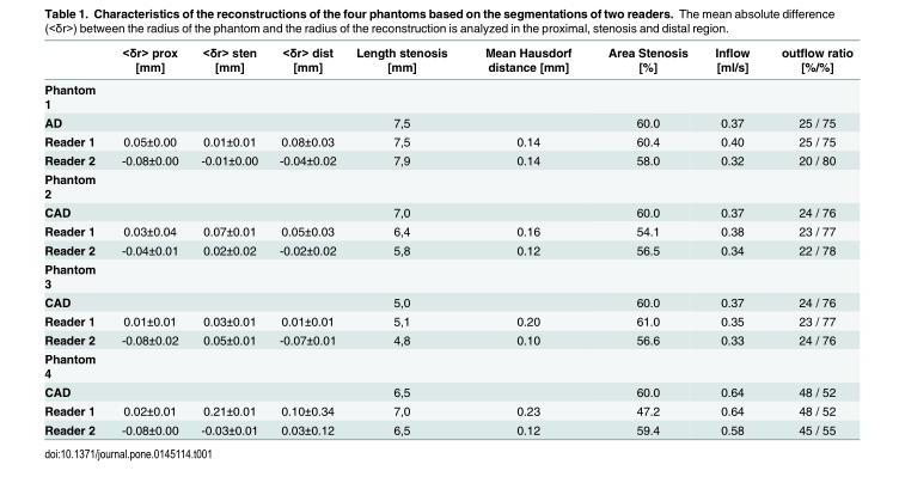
<table><thead><tr><td></td><td>&lt;δr&gt; prox [mm]</td><td>&lt;δr&gt; sten [mm]</td><td>&lt;δr&gt; dist [mm]</td><td>Length stenosis [mm]</td><td>Mean Hausdorf distance [mm]</td><td>Area Stenosis [%]</td><td>Inflow [ml/s]</td><td>outflow ratio [%/%]</td></tr></thead><tbody><tr><td colspan="9">Phantom 1</td></tr><tr><td>AD</td><td></td><td></td><td></td><td>7,5</td><td></td><td>60.0</td><td>0.37</td><td>25 / 75</td></tr><tr><td>Reader 1</td><td>0.05±0.00</td><td>0.01±0.01</td><td>0.08±0.03</td><td>7,5</td><td>0.14</td><td>60.4</td><td>0.40</td><td>25 / 75</td></tr><tr><td>Reader 2</td><td>-0.08±0.00</td><td>-0.01±0.00</td><td>-0.04±0.02</td><td>7,9</td><td>0.14</td><td>58.0</td><td>0.32</td><td>20 / 80</td></tr><tr><td colspan="9">Phantom 2</td></tr><tr><td>CAD</td><td></td><td></td><td></td><td>7,0</td><td></td><td>60.0</td><td>0.37</td><td>24 / 76</td></tr><tr><td>Reader 1</td><td>0.03±0.04</td><td>0.07±0.01</td><td>0.05±0.03</td><td>6,4</td><td>0.16</td><td>54.1</td><td>0.38</td><td>23 / 77</td></tr><tr><td>Reader 2</td><td>-0.04±0.01</td><td>0.02±0.02</td><td>-0.02±0.02</td><td>5,8</td><td>0.12</td><td>56.5</td><td>0.34</td><td>22 / 78</td></tr><tr><td colspan="9">Phantom 3</td></tr><tr><td>CAD</td><td></td><td></td><td></td><td>5,0</td><td></td><td>60.0</td><td>0.37</td><td>24 / 76</td></tr><tr><td>Reader 1</td><td>0.01±0.01</td><td>0.03±0.01</td><td>0.01±0.01</td><td>5,1</td><td>0.20</td><td>61.0</td><td>0.35</td><td>23 / 77</td></tr><tr><td>Reader 2</td><td>-0.08±0.02</td><td>0.05±0.01</td><td>-0.07±0.01</td><td>4,8</td><td>0.10</td><td>56.6</td><td>0.33</td><td>24 / 76</td></tr><tr><td colspan="9">Phantom 4</td></tr><tr><td>CAD</td><td></td><td></td><td></td><td>6,5</td><td></td><td>60.0</td><td>0.64</td><td>48 / 52</td></tr><tr><td>Reader 1</td><td>0.02±0.01</td><td>0.21±0.01</td><td>0.10±0.34</td><td>7,0</td><td>0.23</td><td>47.2</td><td>0.64</td><td>48 / 52</td></tr><tr><td>Reader 2</td><td>-0.08±0.00</td><td>-0.03±0.01</td><td>0.03±0.12</td><td>6,5</td><td>0.12</td><td>59.4</td><td>0.58</td><td>45 / 55</td></tr></tbody></table>